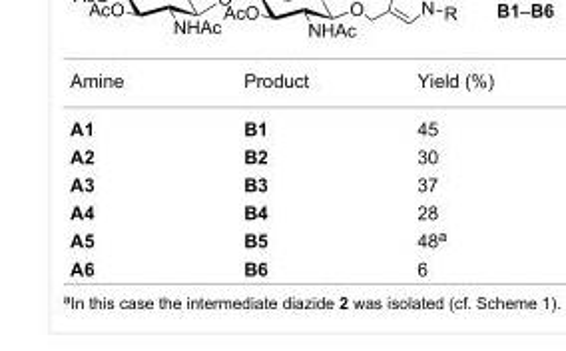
<table><tbody><tr><td>Amine</td><td>Product</td><td>Yield (%)</td></tr><tr><td>A1</td><td>B1</td><td>45</td></tr><tr><td>A2</td><td>B2</td><td>30</td></tr><tr><td>A3</td><td>B3</td><td>37</td></tr><tr><td>A4</td><td>B4</td><td>28</td></tr><tr><td>A5</td><td>B5</td><td>48<sup>a</sup></td></tr><tr><td>A6</td><td>B6</td><td>6</td></tr></tbody></table>